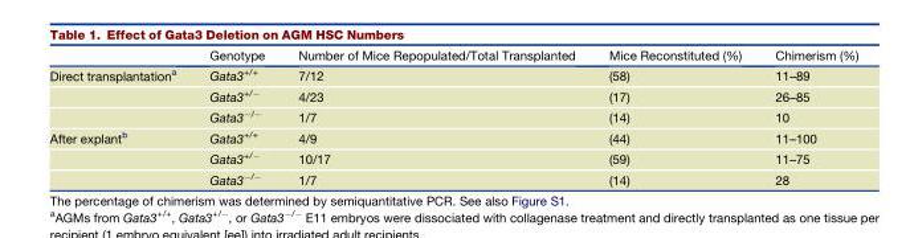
<table><thead><tr><td></td><td>Genotype</td><td>Number of Mice Repopulated/Total Transplanted</td><td>Mice Reconstituted (%)</td><td>Chimerism (%)</td></tr></thead><tbody><tr><td rowspan="3">Direct transplantation<sup>a</sup></td><td>Gata3<sup>+/+</sup></td><td>7/12</td><td>(58)</td><td>11–89</td></tr><tr><td>Gata3<sup>+/−</sup></td><td>4/23</td><td>(17)</td><td>26–85</td></tr><tr><td>Gata3<sup>−/−</sup></td><td>1/7</td><td>(14)</td><td>10</td></tr><tr><td rowspan="3">After explant<sup>b</sup></td><td>Gata3<sup>+/+</sup></td><td>4/9</td><td>(44)</td><td>11–100</td></tr><tr><td>Gata3<sup>+/−</sup></td><td>10/17</td><td>(59)</td><td>11–75</td></tr><tr><td>Gata3<sup>−/−</sup></td><td>1/7</td><td>(14)</td><td>28</td></tr></tbody></table>